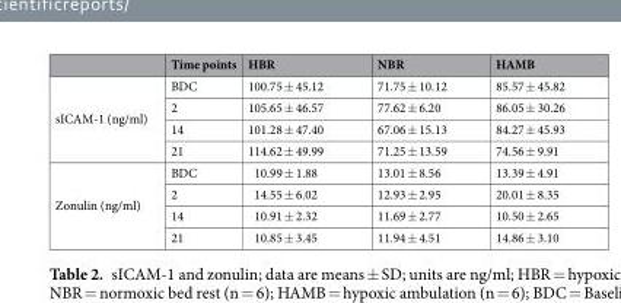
<table><thead><tr><td></td><td>Time points</td><td>HBR</td><td>NBR</td><td>HAMB</td></tr></thead><tbody><tr><td rowspan="4">sICAM-1 (ng/ml)</td><td>BDC</td><td>100.75 ± 45.12</td><td>71.75 ± 10.12</td><td>85.57 ± 45.82</td></tr><tr><td>2</td><td>105.65 ± 46.57</td><td>77.62 ± 6.20</td><td>86.05 ± 30.26</td></tr><tr><td>14</td><td>101.28 ± 47.40</td><td>67.06 ± 15.13</td><td>84.27 ± 45.93</td></tr><tr><td>21</td><td>114.62 ± 49.99</td><td>71.25 ± 13.59</td><td>74.56 ± 9.91</td></tr><tr><td rowspan="4">Zonulin (ng/ml)</td><td>BDC</td><td>10.99 ± 1.88</td><td>13.01 ± 8.56</td><td>13.39 ± 4.91</td></tr><tr><td>2</td><td>14.55 ± 6.02</td><td>12.93 ± 2.95</td><td>20.01 ± 8.35</td></tr><tr><td>14</td><td>10.91 ± 2.32</td><td>11.69 ± 2.77</td><td>10.50 ± 2.65</td></tr><tr><td>21</td><td>10.85 ± 3.45</td><td>11.94 ± 4.51</td><td>14.86 ± 3.10</td></tr></tbody></table>